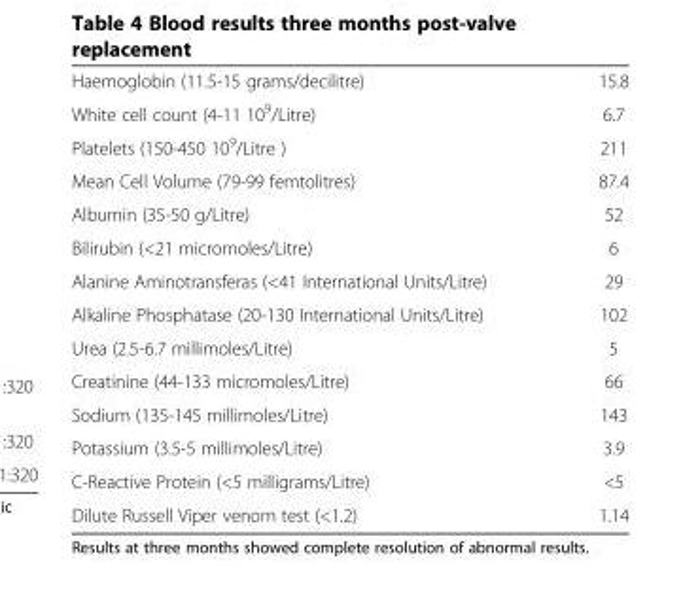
<table><tbody><tr><td>Haemoglobin (11.5-15 grams/decilitre)</td><td>15.8</td></tr><tr><td>White cell count (4-11 10<sup>9</sup>/Litre)</td><td>6.7</td></tr><tr><td>Platelets (150-450 10<sup>9</sup>/Litre )</td><td>211</td></tr><tr><td>Mean Cell Volume (79-99 femtolitres)</td><td>87.4</td></tr><tr><td>Albumin (35-50 g/Litre)</td><td>52</td></tr><tr><td>Bilirubin (&lt;21 micromoles/Litre)</td><td>6</td></tr><tr><td>Alanine Aminotransferas (&lt;41 International Units/Litre)</td><td>29</td></tr><tr><td>Alkaline Phosphatase (20-130 International Units/Litre)</td><td>102</td></tr><tr><td>Urea (2.5-6.7 millimoles/Litre)</td><td>5</td></tr><tr><td>Creatinine (44-133 micromoles/Litre)</td><td>66</td></tr><tr><td>Sodium (135-145 millimoles/Litre)</td><td>143</td></tr><tr><td>Potassium (3.5-5 millimoles/Litre)</td><td>3.9</td></tr><tr><td>C-Reactive Protein (&lt;5 milligrams/Litre)</td><td>&lt;5</td></tr><tr><td>Dilute Russell Viper venom test (&lt;1.2)</td><td>1.14</td></tr></tbody></table>